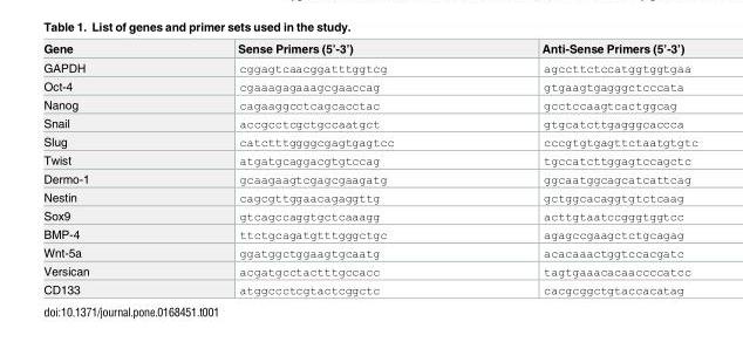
<table><thead><tr><td>Gene</td><td>Sense Primers (5’-3’)</td><td>Anti-Sense Primers (5’-3’)</td></tr></thead><tbody><tr><td>GAPDH</td><td>cggagtcaacggatttggtcg</td><td>agccttctccatggtggtgaa</td></tr><tr><td>Oct-4</td><td>cgaaagagaaagcgaaccag</td><td>gtgaagtgagggctcccata</td></tr><tr><td>Nanog</td><td>cagaaggcctcagcacctac</td><td>gcctccaagtcactggcag</td></tr><tr><td>Snail</td><td>accgcctcgctgccaatgct</td><td>gtgcatcttgagggcaccca</td></tr><tr><td>Slug</td><td>catctttggggcgagtgagtcc</td><td>cccgtgtgagttctaatgtgtc</td></tr><tr><td>Twist</td><td>atgatgcaggacgtgtccag</td><td>tgccatcttggagtccagctc</td></tr><tr><td>Dermo-1</td><td>gcaagaagtcgagcgaagatg</td><td>ggcaatggcagcatcattcag</td></tr><tr><td>Nestin</td><td>cagcgttggaacagaggttg</td><td>gctggcacaggtgtctcaag</td></tr><tr><td>Sox9</td><td>gtcagccaggtgctcaaagg</td><td>acttgtaatccgggtggtcc</td></tr><tr><td>BMP-4</td><td>ttctgcagatgtttgggctgc</td><td>agagccgaagctctgcagag</td></tr><tr><td>Wnt-5a</td><td>ggatggctggaagtgcaatg</td><td>acacaaactggtccacgatc</td></tr><tr><td>Versican</td><td>acgatgcctactttgccacc</td><td>tagtgaaacacaaccccatcc</td></tr><tr><td>CD133</td><td>atggccctcgtactcggctc</td><td>cacgcggctgtaccacatag</td></tr></tbody></table>